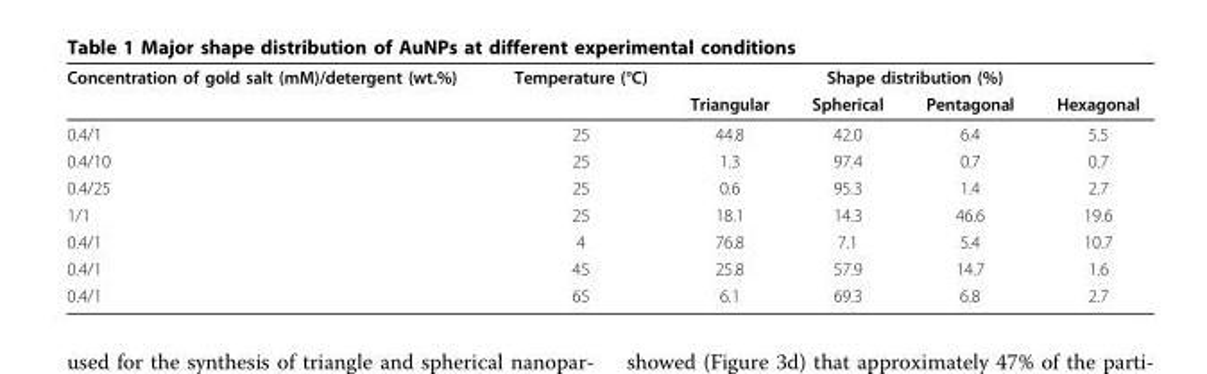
<table><thead><tr><td rowspan="2">Concentration of gold salt (mM)/detergent (wt.%)</td><td rowspan="2">Temperature (°C)</td><td colspan="4">Shape distribution (%)</td></tr><tr><td>Triangular</td><td>Spherical</td><td>Pentagonal</td><td>Hexagonal</td></tr></thead><tbody><tr><td>0.4/1</td><td>25</td><td>44.8</td><td>42.0</td><td>6.4</td><td>5.5</td></tr><tr><td>0.4/10</td><td>25</td><td>1.3</td><td>97.4</td><td>0.7</td><td>0.7</td></tr><tr><td>0.4/25</td><td>25</td><td>0.6</td><td>95.3</td><td>1.4</td><td>2.7</td></tr><tr><td>1/1</td><td>25</td><td>18.1</td><td>14.3</td><td>46.6</td><td>19.6</td></tr><tr><td>0.4/1</td><td>4</td><td>76.8</td><td>7.1</td><td>5.4</td><td>10.7</td></tr><tr><td>0.4/1</td><td>45</td><td>25.8</td><td>57.9</td><td>14.7</td><td>1.6</td></tr><tr><td>0.4/1</td><td>65</td><td>6.1</td><td>69.3</td><td>6.8</td><td>2.7</td></tr></tbody></table>